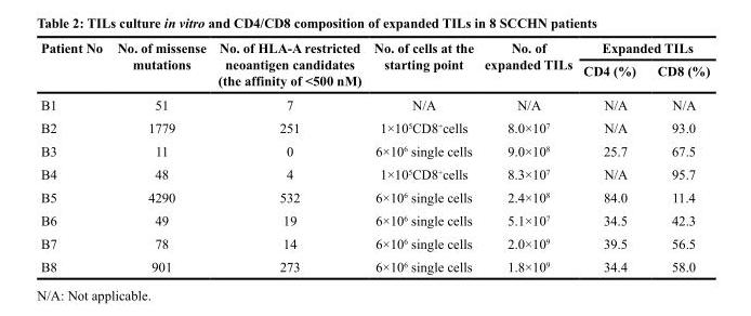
<table><thead><tr><td rowspan="2">Patient No</td><td rowspan="2">No. of missense mutations</td><td rowspan="2">No. of HLA-A restricted neoantigen candidates (the affinity of &lt;500 nM)</td><td rowspan="2">No. of cells at the starting point</td><td rowspan="2">No. of expanded TILs</td><td colspan="2">Expanded TILs</td></tr><tr><td>CD4 (%)</td><td>CD8 (%)</td></tr></thead><tbody><tr><td>B1</td><td>51</td><td>7</td><td>N/A</td><td>N/A</td><td>N/A</td><td>N/A</td></tr><tr><td>B2</td><td>1779</td><td>251</td><td>1×10<sup>5</sup>CD8<sup>+</sup>cells</td><td>8.0×10<sup>7</sup></td><td>N/A</td><td>93.0</td></tr><tr><td>B3</td><td>11</td><td>0</td><td>6×10<sup>6</sup> single cells</td><td>9.0×10<sup>8</sup></td><td>25.7</td><td>67.5</td></tr><tr><td>B4</td><td>48</td><td>4</td><td>1×10<sup>5</sup>CD8<sup>+</sup>cells</td><td>8.3×10<sup>7</sup></td><td>N/A</td><td>95.7</td></tr><tr><td>B5</td><td>4290</td><td>532</td><td>6×10<sup>6</sup> single cells</td><td>2.4×10<sup>8</sup></td><td>84.0</td><td>11.4</td></tr><tr><td>B6</td><td>49</td><td>19</td><td>6×10<sup>6</sup> single cells</td><td>5.1×10<sup>7</sup></td><td>34.5</td><td>42.3</td></tr><tr><td>B7</td><td>78</td><td>14</td><td>6×10<sup>6</sup> single cells</td><td>2.0×10<sup>9</sup></td><td>39.5</td><td>56.5</td></tr><tr><td>B8</td><td>901</td><td>273</td><td>6×10<sup>6</sup> single cells</td><td>1.8×10<sup>9</sup></td><td>34.4</td><td>58.0</td></tr></tbody></table>